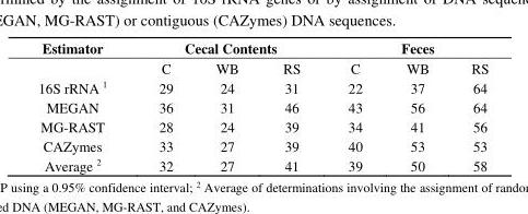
<table><thead><tr><td rowspan="2">Estimator</td><td colspan="3">Cecal Contents</td><td colspan="3">Feces</td></tr><tr><td>C</td><td>WB</td><td>RS</td><td>C</td><td>WB</td><td>RS</td></tr></thead><tbody><tr><td>16S rRNA <sup>1</sup></td><td>29</td><td>24</td><td>31</td><td>22</td><td>37</td><td>64</td></tr><tr><td>MEGAN</td><td>36</td><td>31</td><td>46</td><td>43</td><td>56</td><td>64</td></tr><tr><td>MG-RAST</td><td>28</td><td>24</td><td>39</td><td>34</td><td>41</td><td>56</td></tr><tr><td>CAZymes</td><td>33</td><td>27</td><td>39</td><td>40</td><td>53</td><td>53</td></tr><tr><td>Average <sup>2</sup></td><td>32</td><td>27</td><td>41</td><td>39</td><td>50</td><td>58</td></tr></tbody></table>